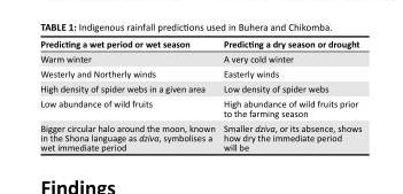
<table><thead><tr><td>Predicting a wet period or wet season</td><td>Predicting a dry season or drought</td></tr></thead><tbody><tr><td>Warm winter</td><td>A very cold winter</td></tr><tr><td>Westerly and Northerly winds</td><td>Easterly winds</td></tr><tr><td>High density of spider webs in a given area</td><td>Low density of spider webs</td></tr><tr><td>Low abundance of wild fruits</td><td>High abundance of wild fruits prior to the farming season</td></tr><tr><td>Bigger circular halo around the moon, known in the Shona language as dziva, symbolises a wet immediate period</td><td>Smaller dziva, or its absence, shows how dry the immediate period will be</td></tr></tbody></table>